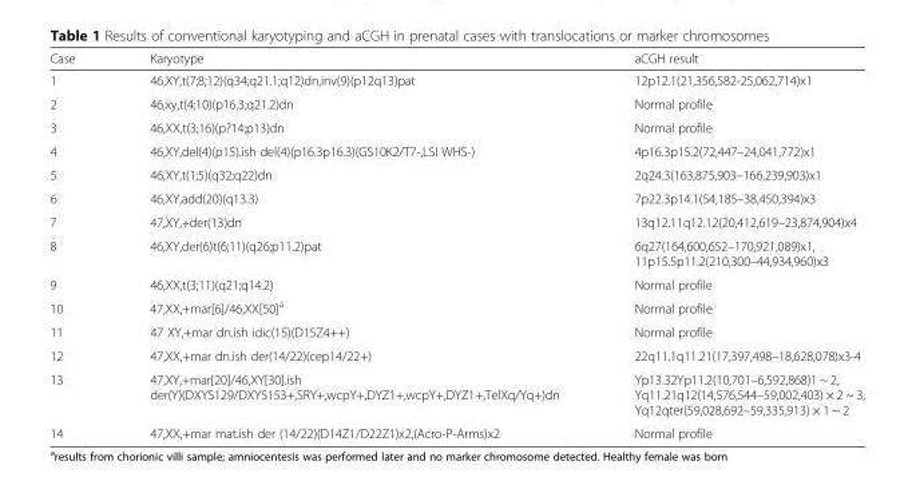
<table><thead><tr><td>Case</td><td>Karyotype</td><td>aCGH result</td></tr></thead><tbody><tr><td>1</td><td>46,XY,t(7;8;12)(q34;q21.1;q12)dn,inv(9)(p12q13)pat</td><td>12p12.1(21,356,582-25,062,714)x1</td></tr><tr><td>2</td><td>46,xy,t(4;10)(p16.3;q21.2)dn</td><td>Normal profile</td></tr><tr><td>3</td><td>46,XX,t(3;16)(p?14;p13)dn</td><td>Normal profile</td></tr><tr><td>4</td><td>46,XY,del(4)(p15).ish del(4)(p16.3p16.3)(GS10K2/T7-,LSI WHS-)</td><td>4p16.3p15.2(72,447–24,041,772)x1</td></tr><tr><td>5</td><td>46,XY,t(1;5)(q32;q22)dn</td><td>2q24.3(163,875,903–166,239,903)x1</td></tr><tr><td>6</td><td>46,XY,add(20)(q13.3)</td><td>7p22.3p14.1(54,185–38,450,394)x3</td></tr><tr><td>7</td><td>47,XY,+der(13)dn</td><td>13q12.11q12.12(20,412,619–23,874,904)x4</td></tr><tr><td>8</td><td>46,XY,der(6)t(6;11)(q26;p11.2)pat</td><td>6q27(164,600,652–170,921,089)x1, 11p15.5p11.2(210,300–44,934,960)x3</td></tr><tr><td>9</td><td>46,XX,t(3;11)(q21;q14.2)</td><td>Normal profile</td></tr><tr><td>10</td><td>47,XX,+mar[6]/46,XX[50]<sup>a</sup></td><td>Normal profile</td></tr><tr><td>11</td><td>47 XY,+mar dn.ish idic(15)(D15Z4++)</td><td>Normal profile</td></tr><tr><td>12</td><td>47,XX,+mar dn.ish der(14/22)(cep14/22+)</td><td>22q11.1q11.21(17,397,498–18,628,078)x3-4</td></tr><tr><td>13</td><td>47,XY,+mar[20]/46,XY[30].ish der(Y)(DXYS129/DXYS153+,SRY+,wcpY+,DYZ1+,wcpY+,DYZ1+,TelXq/Yq+)dn</td><td>Yp13.32Yp11.2(10,701–6,592,868)1 ~ 2, Yq11.21q12(14,576,544–59,002,403) × 2 ~ 3, Yq12qter(59,028,692–59,335,913) × 1 ~ 2</td></tr><tr><td>14</td><td>47,XX,+mar mat.ish der (14/22)(D14Z1/D22Z1)x2,(Acro-P-Arms)x2</td><td>Normal profile</td></tr></tbody></table>